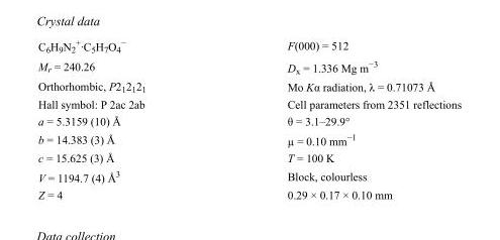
<table><tbody><tr><td>C<sub>6</sub>H<sub>9</sub>N<sub>2</sub> <sup>+</sup>·C<sub>5</sub>H<sub>7</sub>O<sub>4</sub> <sup>−</sup></td><td>F(000) = 512</td></tr><tr><td>M<sub>r</sub> = 240.26</td><td>D<sub>x</sub> = 1.336 Mg m<sup>−3</sup></td></tr><tr><td>Orthorhombic, P2<sub>1</sub>2<sub>1</sub>2<sub>1</sub></td><td>Mo Kα radiation, λ = 0.71073 Å</td></tr><tr><td>Hall symbol: P 2ac 2ab</td><td>Cell parameters from 2351 reflections</td></tr><tr><td>a = 5.3159 (10) Å</td><td>θ = 3.1–29.9°</td></tr><tr><td>b = 14.383 (3) Å</td><td>µ = 0.10 mm<sup>−1</sup></td></tr><tr><td>c = 15.625 (3) Å</td><td>T = 100 K</td></tr><tr><td>V = 1194.7 (4) Å<sup>3</sup></td><td>Block, colourless</td></tr><tr><td>Z = 4</td><td>0.29 × 0.17 × 0.10 mm</td></tr></tbody></table>